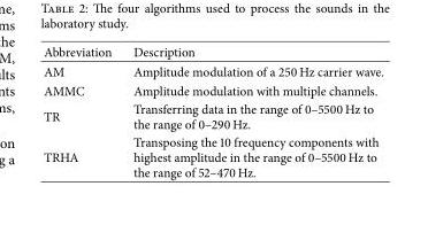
<table><thead><tr><td>Abbreviation</td><td>Description</td></tr></thead><tbody><tr><td>AM</td><td>Amplitude modulation of a 250 Hz carrier wave.</td></tr><tr><td>AMMC</td><td>Amplitude modulation with multiple channels.</td></tr><tr><td>TR</td><td>Transferring data in the range of 0–5500 Hz to the range of 0–290 Hz.</td></tr><tr><td>TRHA</td><td>Transposing the 10 frequency components with highest amplitude in the range of 0–5500 Hz to the range of 52–470 Hz.</td></tr></tbody></table>